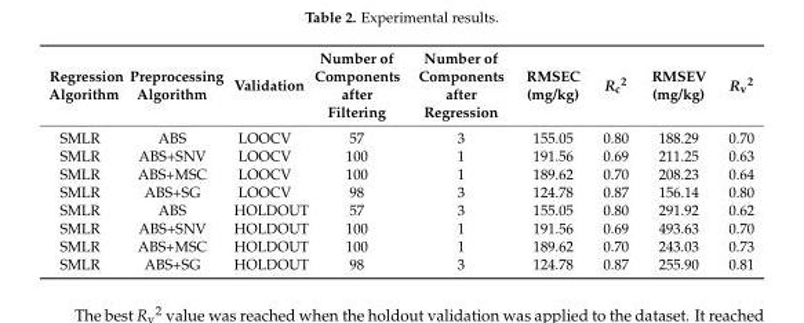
<table><thead><tr><td>Regression Algorithm</td><td>Preprocessing Algorithm</td><td>Validation</td><td>Number of Components after Filtering</td><td>Number of Components after Regression</td><td>RMSEC (mg/kg)</td><td>R<sub>c</sub><sup>2</sup></td><td>RMSEV (mg/kg)</td><td>R<sub>v</sub><sup>2</sup></td></tr></thead><tbody><tr><td>SMLR</td><td>ABS</td><td>LOOCV</td><td>57</td><td>3</td><td>155.05</td><td>0.80</td><td>188.29</td><td>0.70</td></tr><tr><td>SMLR</td><td>ABS+SNV</td><td>LOOCV</td><td>100</td><td>1</td><td>191.56</td><td>0.69</td><td>211.25</td><td>0.63</td></tr><tr><td>SMLR</td><td>ABS+MSC</td><td>LOOCV</td><td>100</td><td>1</td><td>189.62</td><td>0.70</td><td>208.23</td><td>0.64</td></tr><tr><td>SMLR</td><td>ABS+SG</td><td>LOOCV</td><td>98</td><td>3</td><td>124.78</td><td>0.87</td><td>156.14</td><td>0.80</td></tr><tr><td>SMLR</td><td>ABS</td><td>HOLDOUT</td><td>57</td><td>3</td><td>155.05</td><td>0.80</td><td>291.92</td><td>0.62</td></tr><tr><td>SMLR</td><td>ABS+SNV</td><td>HOLDOUT</td><td>100</td><td>1</td><td>191.56</td><td>0.69</td><td>493.63</td><td>0.70</td></tr><tr><td>SMLR</td><td>ABS+MSC</td><td>HOLDOUT</td><td>100</td><td>1</td><td>189.62</td><td>0.70</td><td>243.03</td><td>0.73</td></tr><tr><td>SMLR</td><td>ABS+SG</td><td>HOLDOUT</td><td>98</td><td>3</td><td>124.78</td><td>0.87</td><td>255.90</td><td>0.81</td></tr></tbody></table>